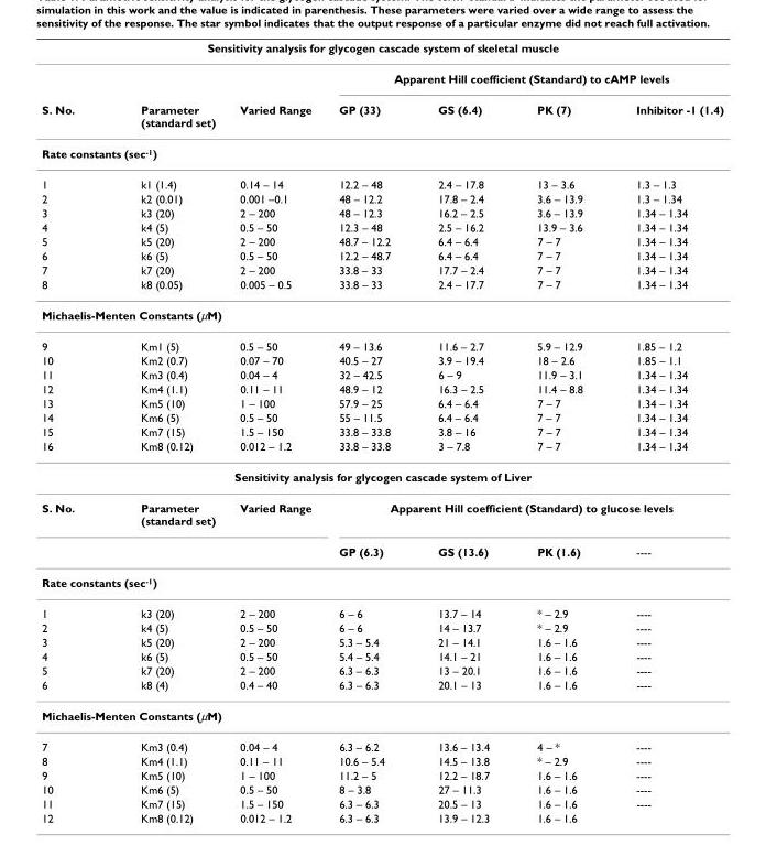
<table><thead><tr><td colspan="7">Sensitivity analysis for glycogen cascade system of skeletal muscle</td></tr><tr><td rowspan="2">S. No.</td><td rowspan="2">Parameter (standard set)</td><td rowspan="2">Varied Range</td><td colspan="4">Apparent Hill coefficient (Standard) to cAMP levels</td></tr><tr><td>GP (33)</td><td>GS (6.4)</td><td>PK (7)</td><td>Inhibitor -1 (1.4)</td></tr></thead><tbody><tr><td colspan="7">Rate constants (sec<sup>-1</sup>)</td></tr><tr><td>1</td><td>k1 (1.4)</td><td>0.14 – 14</td><td>12.2 – 48</td><td>2.4 – 17.8</td><td>13 – 3.6</td><td>1.3 – 1.3</td></tr><tr><td>2</td><td>k2 (0.01)</td><td>0.001 –0.1</td><td>48 – 12.2</td><td>17.8 – 2.4</td><td>3.6 – 13.9</td><td>1.3 – 1.34</td></tr><tr><td>3</td><td>k3 (20)</td><td>2 – 200</td><td>48 – 12.3</td><td>16.2 – 2.5</td><td>3.6 – 13.9</td><td>1.34 – 1.34</td></tr><tr><td>4</td><td>k4 (5)</td><td>0.5 – 50</td><td>12.3 – 48</td><td>2.5 – 16.2</td><td>13.9 – 3.6</td><td>1.34 – 1.34</td></tr><tr><td>5</td><td>k5 (20)</td><td>2 – 200</td><td>48.7 – 12.2</td><td>6.4 – 6.4</td><td>7 – 7</td><td>1.34 – 1.34</td></tr><tr><td>6</td><td>k6 (5)</td><td>0.5 – 50</td><td>12.2 – 48.7</td><td>6.4 – 6.4</td><td>7 – 7</td><td>1.34 – 1.34</td></tr><tr><td>7</td><td>k7 (20)</td><td>2 – 200</td><td>33.8 – 33</td><td>17.7 – 2.4</td><td>7 – 7</td><td>1.34 – 1.34</td></tr><tr><td>8</td><td>k8 (0.05)</td><td>0.005 – 0.5</td><td>33.8 – 33</td><td>2.4 – 17.7</td><td>7 – 7</td><td>1.34 – 1.34</td></tr><tr><td colspan="7">Michaelis-Menten Constants (µM)</td></tr><tr><td>9</td><td>Km1 (5)</td><td>0.5 – 50</td><td>49 – 13.6</td><td>11.6 – 2.7</td><td>5.9 – 12.9</td><td>1.85 – 1.2</td></tr><tr><td>10</td><td>Km2 (0.7)</td><td>0.07 – 70</td><td>40.5 – 27</td><td>3.9 – 19.4</td><td>18 – 2.6</td><td>1.85 – 1.1</td></tr><tr><td>11</td><td>Km3 (0.4)</td><td>0.04 – 4</td><td>32 – 42.5</td><td>6 – 9</td><td>11.9 – 3.1</td><td>1.34 – 1.34</td></tr><tr><td>12</td><td>Km4 (1.1)</td><td>0.11 – 11</td><td>48.9 – 12</td><td>16.3 – 2.5</td><td>11.4 – 8.8</td><td>1.34 – 1.34</td></tr><tr><td>13</td><td>Km5 (10)</td><td>1 – 100</td><td>57.9 – 25</td><td>6.4 – 6.4</td><td>7 – 7</td><td>1.34 – 1.34</td></tr><tr><td>14</td><td>Km6 (5)</td><td>0.5 – 50</td><td>55 – 11.5</td><td>6.4 – 6.4</td><td>7 – 7</td><td>1.34 – 1.34</td></tr><tr><td>15</td><td>Km7 (15)</td><td>1.5 – 150</td><td>33.8 – 33.8</td><td>3.8 – 16</td><td>7 – 7</td><td>1.34 – 1.34</td></tr><tr><td>16</td><td>Km8 (0.12)</td><td>0.012 – 1.2</td><td>33.8 – 33.8</td><td>3 – 7.8</td><td>7 – 7</td><td>1.34 – 1.34</td></tr><tr><td colspan="7">Sensitivity analysis for glycogen cascade system of Liver</td></tr><tr><td rowspan="2">S. No.</td><td>Parameter (standard set)</td><td>Varied Range</td><td colspan="4">Apparent Hill coefficient (Standard) to glucose levels</td></tr><tr><td></td><td></td><td>GP (6.3)</td><td>GS (13.6)</td><td>PK (1.6)</td><td>----</td></tr><tr><td colspan="7">Rate constants (sec<sup>-1</sup>)</td></tr><tr><td>1</td><td>k3 (20)</td><td>2 – 200</td><td>6 – 6</td><td>13.7 – 14</td><td>* – 2.9</td><td>----</td></tr><tr><td>2</td><td>k4 (5)</td><td>0.5 – 50</td><td>6 – 6</td><td>14 – 13.7</td><td>* – 2.9</td><td>----</td></tr><tr><td>3</td><td>k5 (20)</td><td>2 – 200</td><td>5.3 – 5.4</td><td>21 – 14.1</td><td>1.6 – 1.6</td><td>----</td></tr><tr><td>4</td><td>k6 (5)</td><td>0.5 – 50</td><td>5.4 – 5.4</td><td>14.1 – 21</td><td>1.6 – 1.6</td><td>----</td></tr><tr><td>5</td><td>k7 (20)</td><td>2 – 200</td><td>6.3 – 6.3</td><td>13 – 20.1</td><td>1.6 – 1.6</td><td>----</td></tr><tr><td>6</td><td>k8 (4)</td><td>0.4 – 40</td><td>6.3 – 6.3</td><td>20.1 – 13</td><td>1.6 – 1.6</td><td>----</td></tr><tr><td colspan="7">Michaelis-Menten Constants (µM)</td></tr><tr><td>7</td><td>Km3 (0.4)</td><td>0.04 – 4</td><td>6.3 – 6.2</td><td>13.6 – 13.4</td><td>4 – *</td><td>----</td></tr><tr><td>8</td><td>Km4 (1.1)</td><td>0.11 – 11</td><td>10.6 – 5.4</td><td>14.5 – 13.8</td><td>* – 2.9</td><td>----</td></tr><tr><td>9</td><td>Km5 (10)</td><td>1 – 100</td><td>11.2 – 5</td><td>12.2 – 18.7</td><td>1.6 – 1.6</td><td>----</td></tr><tr><td>10</td><td>Km6 (5)</td><td>0.5 – 50</td><td>8 – 3.8</td><td>27 – 11.3</td><td>1.6 – 1.6</td><td>----</td></tr><tr><td>11</td><td>Km7 (15)</td><td>1.5 – 150</td><td>6.3 – 6.3</td><td>20.5 – 13</td><td>1.6 – 1.6</td><td>----</td></tr><tr><td>12</td><td>Km8 (0.12)</td><td>0.012 – 1.2</td><td>6.3 – 6.3</td><td>13.9 – 12.3</td><td>1.6 – 1.6</td><td></td></tr></tbody></table>